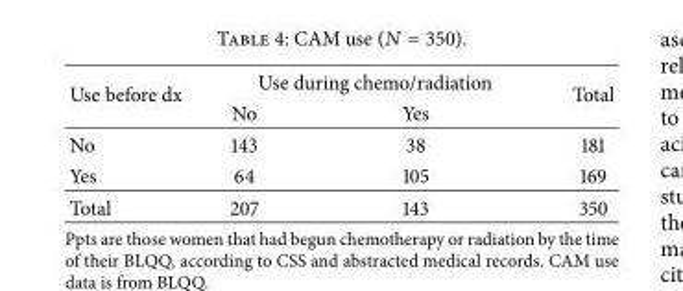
<table><thead><tr><td rowspan="2">Use before dx</td><td colspan="2">Use during chemo/radiation</td><td rowspan="2">Total</td></tr><tr><td>No</td><td>Yes</td></tr></thead><tbody><tr><td>No</td><td>143</td><td>38</td><td>181</td></tr><tr><td>Yes</td><td>64</td><td>105</td><td>169</td></tr><tr><td>Total</td><td>207</td><td>143</td><td>350</td></tr></tbody></table>